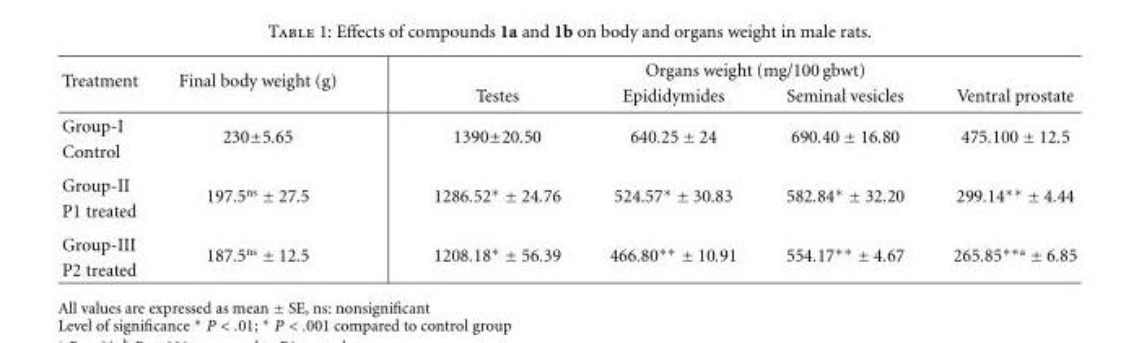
<table><tbody><tr><td rowspan="2">Treatment</td><td rowspan="2">Final body weight (g)</td><td colspan="4">Organs weight (mg/100 gbwt)</td></tr><tr><td>Testes</td><td>Epididymides</td><td>Seminal vesicles</td><td>Ventral prostate</td></tr><tr><td>Group-I</td><td rowspan="2">230±5.65</td><td rowspan="2">1390±20.50</td><td rowspan="2">640.25 ± 24</td><td rowspan="2">690.40 ± 16.80</td><td rowspan="2">475.100 ± 12.5</td></tr><tr><td>Control</td></tr><tr><td>Group-II</td><td rowspan="2">197.5<sup>ns</sup> ± 27.5</td><td rowspan="2">1286.52∗ ± 24.76</td><td rowspan="2">524.57∗ ± 30.83</td><td rowspan="2">582.84∗ ± 32.20</td><td rowspan="2">299.14∗∗ ± 4.44</td></tr><tr><td>P1 treated</td></tr><tr><td>Group-III</td><td rowspan="2">187.5<sup>ns</sup> ± 12.5</td><td rowspan="2">1208.18∗ ± 56.39</td><td rowspan="2">466.80∗∗ ± 10.91</td><td rowspan="2">554.17∗∗ ± 4.67</td><td rowspan="2">265.85∗∗a ± 6.85</td></tr><tr><td>P2 treated</td></tr></tbody></table>